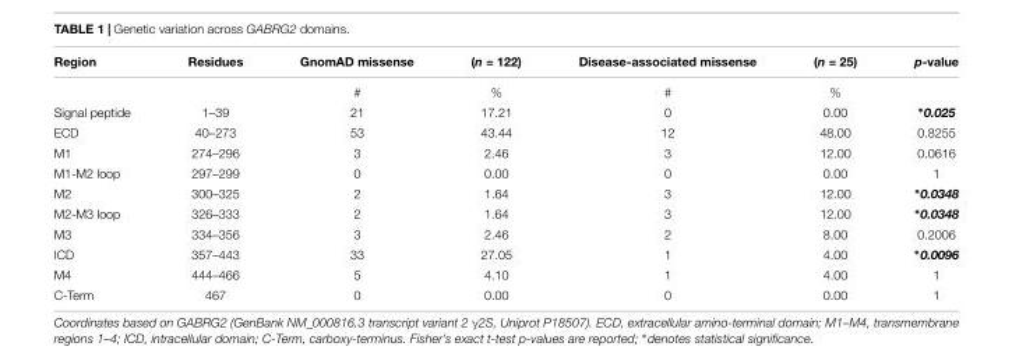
<table><thead><tr><td>Region</td><td>Residues</td><td>GnomAD missense</td><td>(n = 122)</td><td>Disease-associated missense</td><td>(n = 25)</td><td>p-value</td></tr></thead><tbody><tr><td></td><td></td><td>#</td><td>%</td><td>#</td><td>%</td><td></td></tr><tr><td>Signal peptide</td><td>1–39</td><td>21</td><td>17.21</td><td>0</td><td>0.00</td><td>∗0.025</td></tr><tr><td>ECD</td><td>40–273</td><td>53</td><td>43.44</td><td>12</td><td>48.00</td><td>0.8255</td></tr><tr><td>M1</td><td>274–296</td><td>3</td><td>2.46</td><td>3</td><td>12.00</td><td>0.0616</td></tr><tr><td>M1-M2 loop</td><td>297–299</td><td>0</td><td>0.00</td><td>0</td><td>0.00</td><td>1</td></tr><tr><td>M2</td><td>300–325</td><td>2</td><td>1.64</td><td>3</td><td>12.00</td><td>∗0.0348</td></tr><tr><td>M2-M3 loop</td><td>326–333</td><td>2</td><td>1.64</td><td>3</td><td>12.00</td><td>∗0.0348</td></tr><tr><td>M3</td><td>334–356</td><td>3</td><td>2.46</td><td>2</td><td>8.00</td><td>0.2006</td></tr><tr><td>ICD</td><td>357–443</td><td>33</td><td>27.05</td><td>1</td><td>4.00</td><td>∗0.0096</td></tr><tr><td>M4</td><td>444–466</td><td>5</td><td>4.10</td><td>1</td><td>4.00</td><td>1</td></tr><tr><td>C-Term</td><td>467</td><td>0</td><td>0.00</td><td>0</td><td>0.00</td><td>1</td></tr></tbody></table>